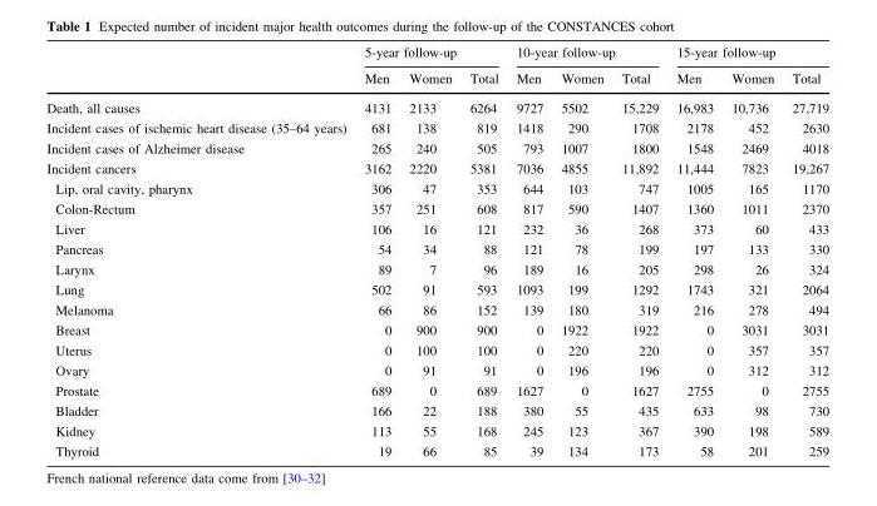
<table><thead><tr><td rowspan="2"></td><td colspan="3">5-year follow-up</td><td colspan="3">10-year follow-up</td><td colspan="3">15-year follow-up</td></tr><tr><td>Men</td><td>Women</td><td>Total</td><td>Men</td><td>Women</td><td>Total</td><td>Men</td><td>Women</td><td>Total</td></tr></thead><tbody><tr><td>Death, all causes</td><td>4131</td><td>2133</td><td>6264</td><td>9727</td><td>5502</td><td>15,229</td><td>16,983</td><td>10,736</td><td>27,719</td></tr><tr><td>Incident cases of ischemic heart disease (35–64 years)</td><td>681</td><td>138</td><td>819</td><td>1418</td><td>290</td><td>1708</td><td>2178</td><td>452</td><td>2630</td></tr><tr><td>Incident cases of Alzheimer disease</td><td>265</td><td>240</td><td>505</td><td>793</td><td>1007</td><td>1800</td><td>1548</td><td>2469</td><td>4018</td></tr><tr><td>Incident cancers</td><td>3162</td><td>2220</td><td>5381</td><td>7036</td><td>4855</td><td>11,892</td><td>11,444</td><td>7823</td><td>19,267</td></tr><tr><td>Lip, oral cavity, pharynx</td><td>306</td><td>47</td><td>353</td><td>644</td><td>103</td><td>747</td><td>1005</td><td>165</td><td>1170</td></tr><tr><td>Colon-Rectum</td><td>357</td><td>251</td><td>608</td><td>817</td><td>590</td><td>1407</td><td>1360</td><td>1011</td><td>2370</td></tr><tr><td>Liver</td><td>106</td><td>16</td><td>121</td><td>232</td><td>36</td><td>268</td><td>373</td><td>60</td><td>433</td></tr><tr><td>Pancreas</td><td>54</td><td>34</td><td>88</td><td>121</td><td>78</td><td>199</td><td>197</td><td>133</td><td>330</td></tr><tr><td>Larynx</td><td>89</td><td>7</td><td>96</td><td>189</td><td>16</td><td>205</td><td>298</td><td>26</td><td>324</td></tr><tr><td>Lung</td><td>502</td><td>91</td><td>593</td><td>1093</td><td>199</td><td>1292</td><td>1743</td><td>321</td><td>2064</td></tr><tr><td>Melanoma</td><td>66</td><td>86</td><td>152</td><td>139</td><td>180</td><td>319</td><td>216</td><td>278</td><td>494</td></tr><tr><td>Breast</td><td>0</td><td>900</td><td>900</td><td>0</td><td>1922</td><td>1922</td><td>0</td><td>3031</td><td>3031</td></tr><tr><td>Uterus</td><td>0</td><td>100</td><td>100</td><td>0</td><td>220</td><td>220</td><td>0</td><td>357</td><td>357</td></tr><tr><td>Ovary</td><td>0</td><td>91</td><td>91</td><td>0</td><td>196</td><td>196</td><td>0</td><td>312</td><td>312</td></tr><tr><td>Prostate</td><td>689</td><td>0</td><td>689</td><td>1627</td><td>0</td><td>1627</td><td>2755</td><td>0</td><td>2755</td></tr><tr><td>Bladder</td><td>166</td><td>22</td><td>188</td><td>380</td><td>55</td><td>435</td><td>633</td><td>98</td><td>730</td></tr><tr><td>Kidney</td><td>113</td><td>55</td><td>168</td><td>245</td><td>123</td><td>367</td><td>390</td><td>198</td><td>589</td></tr><tr><td>Thyroid</td><td>19</td><td>66</td><td>85</td><td>39</td><td>134</td><td>173</td><td>58</td><td>201</td><td>259</td></tr></tbody></table>